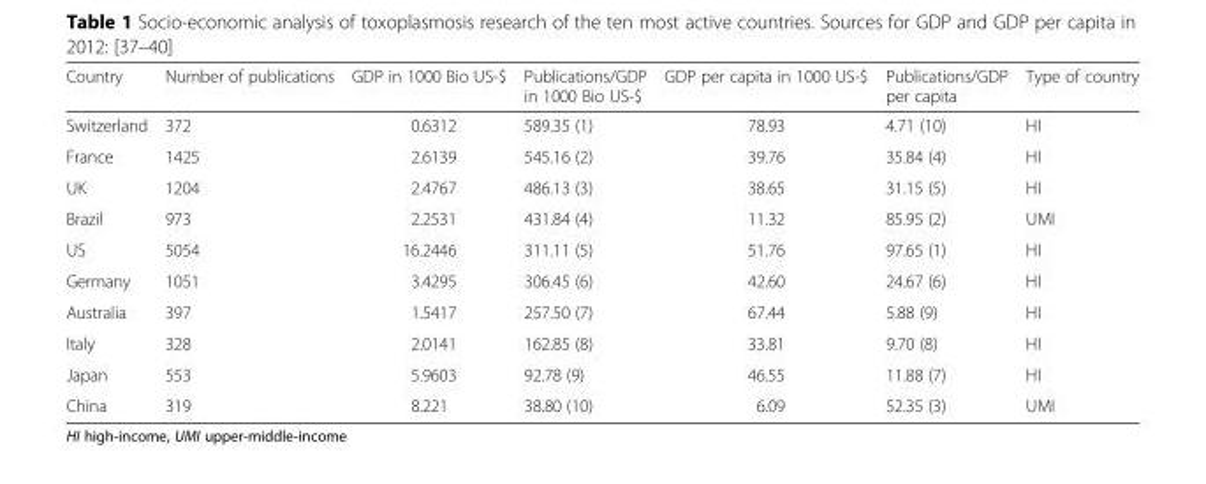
<table><thead><tr><td>Country</td><td>Number of publications</td><td>GDP in 1000 Bio US-$</td><td>Publications/GDP in 1000 Bio US-$</td><td>GDP per capita in 1000 US-$</td><td>Publications/GDP per capita</td><td>Type of country</td></tr></thead><tbody><tr><td>Switzerland</td><td>372</td><td>0.6312</td><td>589.35 (1)</td><td>78.93</td><td>4.71 (10)</td><td>HI</td></tr><tr><td>France</td><td>1425</td><td>2.6139</td><td>545.16 (2)</td><td>39.76</td><td>35.84 (4)</td><td>HI</td></tr><tr><td>UK</td><td>1204</td><td>2.4767</td><td>486.13 (3)</td><td>38.65</td><td>31.15 (5)</td><td>HI</td></tr><tr><td>Brazil</td><td>973</td><td>2.2531</td><td>431.84 (4)</td><td>11.32</td><td>85.95 (2)</td><td>UMI</td></tr><tr><td>US</td><td>5054</td><td>16.2446</td><td>311.11 (5)</td><td>51.76</td><td>97.65 (1)</td><td>HI</td></tr><tr><td>Germany</td><td>1051</td><td>3.4295</td><td>306.45 (6)</td><td>42.60</td><td>24.67 (6)</td><td>HI</td></tr><tr><td>Australia</td><td>397</td><td>1.5417</td><td>257.50 (7)</td><td>67.44</td><td>5.88 (9)</td><td>HI</td></tr><tr><td>Italy</td><td>328</td><td>2.0141</td><td>162.85 (8)</td><td>33.81</td><td>9.70 (8)</td><td>HI</td></tr><tr><td>Japan</td><td>553</td><td>5.9603</td><td>92.78 (9)</td><td>46.55</td><td>11.88 (7)</td><td>HI</td></tr><tr><td>China</td><td>319</td><td>8.221</td><td>38.80 (10)</td><td>6.09</td><td>52.35 (3)</td><td>UMI</td></tr></tbody></table>